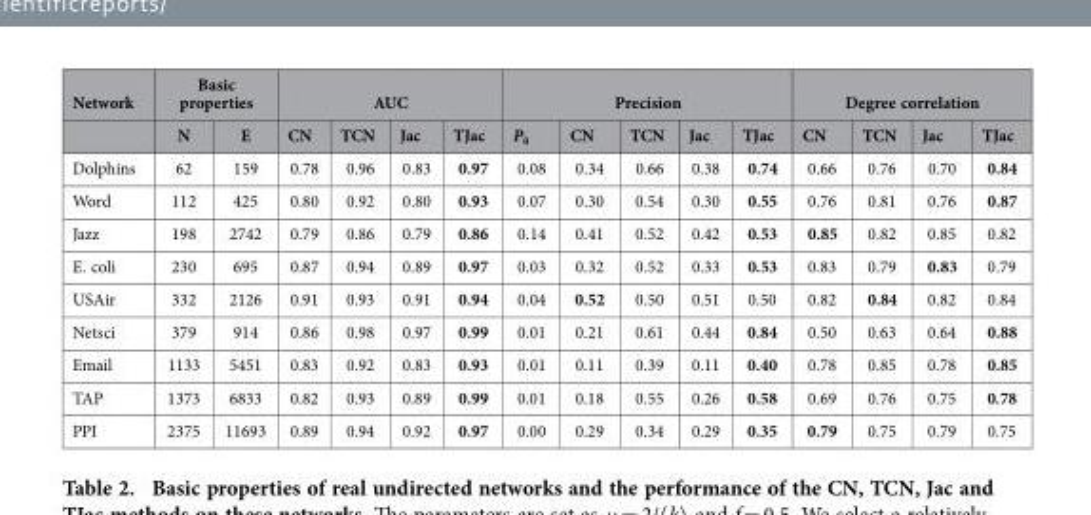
<table><thead><tr><td rowspan="2">Network</td><td colspan="2">Basic properties</td><td colspan="4">AUC</td><td colspan="5">Precision</td><td colspan="4">Degree correlation</td></tr><tr><td>N</td><td>E</td><td>CN</td><td>TCN</td><td>Jac</td><td>TJac</td><td>P<sub>0</sub></td><td>CN</td><td>TCN</td><td>Jac</td><td>TJac</td><td>CN</td><td>TCN</td><td>Jac</td><td>TJac</td></tr></thead><tbody><tr><td>Dolphins</td><td>62</td><td>159</td><td>0.78</td><td>0.96</td><td>0.83</td><td>0.97</td><td>0.08</td><td>0.34</td><td>0.66</td><td>0.38</td><td>0.74</td><td>0.66</td><td>0.76</td><td>0.70</td><td>0.84</td></tr><tr><td>Word</td><td>112</td><td>425</td><td>0.80</td><td>0.92</td><td>0.80</td><td>0.93</td><td>0.07</td><td>0.30</td><td>0.54</td><td>0.30</td><td>0.55</td><td>0.76</td><td>0.81</td><td>0.76</td><td>0.87</td></tr><tr><td>Jazz</td><td>198</td><td>2742</td><td>0.79</td><td>0.86</td><td>0.79</td><td>0.86</td><td>0.14</td><td>0.41</td><td>0.52</td><td>0.42</td><td>0.53</td><td>0.85</td><td>0.82</td><td>0.85</td><td>0.82</td></tr><tr><td>E. coli</td><td>230</td><td>695</td><td>0.87</td><td>0.94</td><td>0.89</td><td>0.97</td><td>0.03</td><td>0.32</td><td>0.52</td><td>0.33</td><td>0.53</td><td>0.83</td><td>0.79</td><td>0.83</td><td>0.79</td></tr><tr><td>USAir</td><td>332</td><td>2126</td><td>0.91</td><td>0.93</td><td>0.91</td><td>0.94</td><td>0.04</td><td>0.52</td><td>0.50</td><td>0.51</td><td>0.50</td><td>0.82</td><td>0.84</td><td>0.82</td><td>0.84</td></tr><tr><td>Netsci</td><td>379</td><td>914</td><td>0.86</td><td>0.98</td><td>0.97</td><td>0.99</td><td>0.01</td><td>0.21</td><td>0.61</td><td>0.44</td><td>0.84</td><td>0.50</td><td>0.63</td><td>0.64</td><td>0.88</td></tr><tr><td>Email</td><td>1133</td><td>5451</td><td>0.83</td><td>0.92</td><td>0.83</td><td>0.93</td><td>0.01</td><td>0.11</td><td>0.39</td><td>0.11</td><td>0.40</td><td>0.78</td><td>0.85</td><td>0.78</td><td>0.85</td></tr><tr><td>TAP</td><td>1373</td><td>6833</td><td>0.82</td><td>0.93</td><td>0.89</td><td>0.99</td><td>0.01</td><td>0.18</td><td>0.55</td><td>0.26</td><td>0.58</td><td>0.69</td><td>0.76</td><td>0.75</td><td>0.78</td></tr><tr><td>PPI</td><td>2375</td><td>11693</td><td>0.89</td><td>0.94</td><td>0.92</td><td>0.97</td><td>0.00</td><td>0.29</td><td>0.34</td><td>0.29</td><td>0.35</td><td>0.79</td><td>0.75</td><td>0.79</td><td>0.75</td></tr></tbody></table>